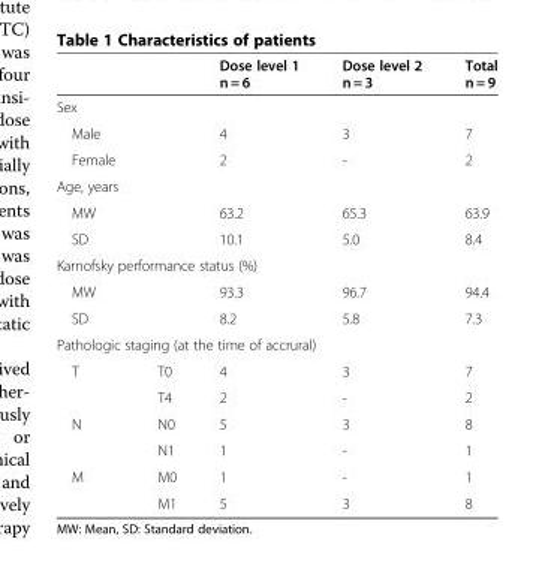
<table><thead><tr><td></td><td></td><td>Dose level 1 n = 6</td><td>Dose level 2 n = 3</td><td>Total n = 9</td></tr></thead><tbody><tr><td colspan="5">Sex</td></tr><tr><td>Male</td><td></td><td>4</td><td>3</td><td>7</td></tr><tr><td>Female</td><td></td><td>2</td><td>-</td><td>2</td></tr><tr><td colspan="5">Age, years</td></tr><tr><td>MW</td><td></td><td>63.2</td><td>65.3</td><td>63.9</td></tr><tr><td>SD</td><td></td><td>10.1</td><td>5.0</td><td>8.4</td></tr><tr><td colspan="5">Karnofsky performance status (%)</td></tr><tr><td>MW</td><td></td><td>93.3</td><td>96.7</td><td>94.4</td></tr><tr><td>SD</td><td></td><td>8.2</td><td>5.8</td><td>7.3</td></tr><tr><td colspan="5">Pathologic staging (at the time of accrural)</td></tr><tr><td rowspan="2">T</td><td>T0</td><td>4</td><td>3</td><td>7</td></tr><tr><td>T4</td><td>2</td><td>-</td><td>2</td></tr><tr><td rowspan="2">N</td><td>N0</td><td>5</td><td>3</td><td>8</td></tr><tr><td>N1</td><td>1</td><td>-</td><td>1</td></tr><tr><td rowspan="2">M</td><td>M0</td><td>1</td><td>-</td><td>1</td></tr><tr><td>M1</td><td>5</td><td>3</td><td>8</td></tr></tbody></table>